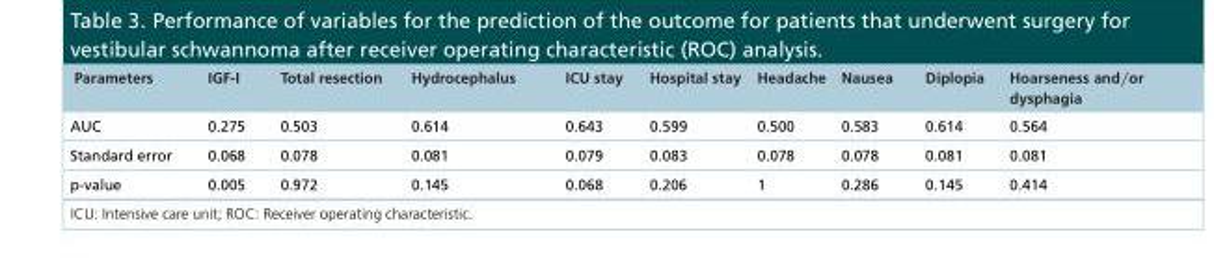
<table><thead><tr><td>Parameters</td><td>IGF-I</td><td>Total resection</td><td>Hydrocephalus</td><td>ICU stay</td><td>Hospital stay</td><td>Headache</td><td>Nausea</td><td>Diplopia</td><td>Hoarseness and/or dysphagia</td></tr></thead><tbody><tr><td>AUC</td><td>0.275</td><td>0.503</td><td>0.614</td><td>0.643</td><td>0.599</td><td>0.500</td><td>0.583</td><td>0.614</td><td>0.564</td></tr><tr><td>Standard error</td><td>0.068</td><td>0.078</td><td>0.081</td><td>0.079</td><td>0.083</td><td>0.078</td><td>0.078</td><td>0.081</td><td>0.081</td></tr><tr><td>p-value</td><td>0.005</td><td>0.972</td><td>0.145</td><td>0.068</td><td>0.206</td><td>1</td><td>0.286</td><td>0.145</td><td>0.414</td></tr></tbody></table>